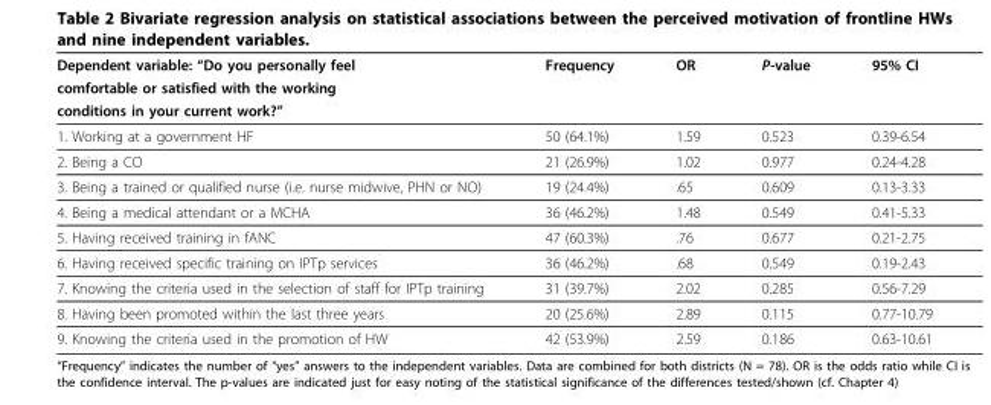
<table><thead><tr><td rowspan="3">Dependent variable: “Do you personally feel comfortable or satisfied with the working conditions in your current work?”</td><td rowspan="3">Frequency</td><td rowspan="3">OR</td><td rowspan="3">P-value</td><td rowspan="3">95% CI</td></tr><tr></tr><tr></tr></thead><tbody><tr><td>1. Working at a government HF</td><td>50 (64.1%)</td><td>1.59</td><td>0.523</td><td>0.39-6.54</td></tr><tr><td>2. Being a CO</td><td>21 (26.9%)</td><td>1.02</td><td>0.977</td><td>0.24-4.28</td></tr><tr><td>3. Being a trained or qualified nurse (i.e. nurse midwive, PHN or NO)</td><td>19 (24.4%)</td><td>.65</td><td>0.609</td><td>0.13-3.33</td></tr><tr><td>4. Being a medical attendant or a MCHA</td><td>36 (46.2%)</td><td>1.48</td><td>0.549</td><td>0.41-5.33</td></tr><tr><td>5. Having received training in fANC</td><td>47 (60.3%)</td><td>.76</td><td>0.677</td><td>0.21-2.75</td></tr><tr><td>6. Having received specific training on IPTp services</td><td>36 (46.2%)</td><td>.68</td><td>0.549</td><td>0.19-2.43</td></tr><tr><td>7. Knowing the criteria used in the selection of staff for IPTp training</td><td>31 (39.7%)</td><td>2.02</td><td>0.285</td><td>0.56-7.29</td></tr><tr><td>8. Having been promoted within the last three years</td><td>20 (25.6%)</td><td>2.89</td><td>0.115</td><td>0.77-10.79</td></tr><tr><td>9. Knowing the criteria used in the promotion of HW</td><td>42 (53.9%)</td><td>2.59</td><td>0.186</td><td>0.63-10.61</td></tr></tbody></table>